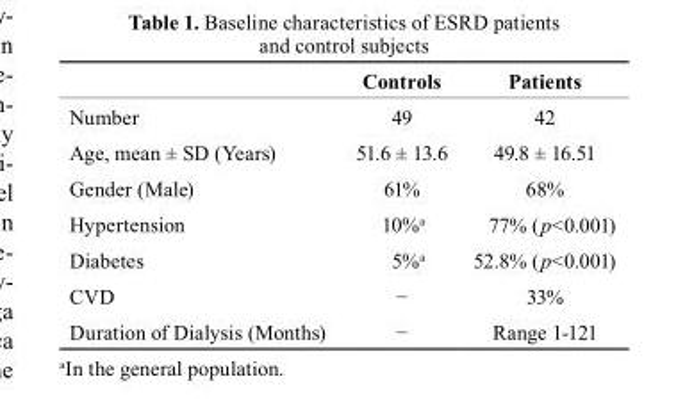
<table><thead><tr><td></td><td>controls</td><td>Patients</td></tr></thead><tbody><tr><td>Number</td><td>49</td><td>42</td></tr><tr><td>Age, mean ± SD (Years)</td><td>51.6 ± 13.6</td><td>49.8 ± 16.51</td></tr><tr><td>Gender (Male)</td><td>61%</td><td>68%</td></tr><tr><td>Hypertension</td><td>10%<sup>a</sup></td><td>77% (p&lt;0.001)</td></tr><tr><td>Diabetes</td><td>5%<sup>a</sup></td><td>52.8% (p&lt;0.001)</td></tr><tr><td>CVD</td><td>−</td><td>33%</td></tr><tr><td>Duration of Dialysis (Months)</td><td>−</td><td>Range 1-121</td></tr></tbody></table>